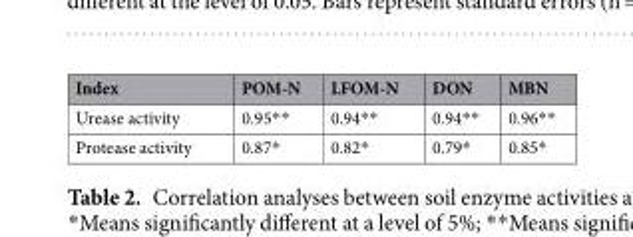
<table><thead><tr><td>Index</td><td>POM-N</td><td>LFOM-N</td><td>DON</td><td>MBN</td></tr></thead><tbody><tr><td>Urease activity</td><td>0.95**</td><td>0.94**</td><td>0.94**</td><td>0.96**</td></tr><tr><td>Protease activity</td><td>0.87*</td><td>0.82*</td><td>0.79*</td><td>0.85*</td></tr></tbody></table>